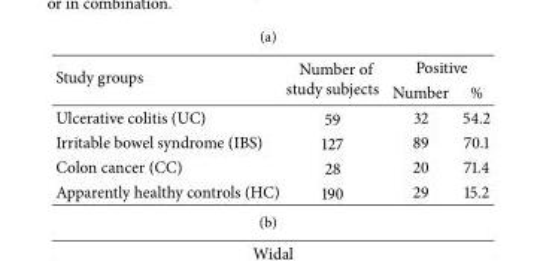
<table><thead><tr><td rowspan="2">Study groups</td><td rowspan="2">Number of study subjects</td><td colspan="2">Positive</td></tr><tr><td>Number</td><td>%</td></tr></thead><tbody><tr><td>Ulcerative colitis (UC)</td><td>59</td><td>32</td><td>54.2</td></tr><tr><td>Irritable bowel syndrome (IBS)</td><td>127</td><td>89</td><td>70.1</td></tr><tr><td>Colon cancer (CC)</td><td>28</td><td>20</td><td>71.4</td></tr><tr><td>Apparently healthy controls (HC)</td><td>190</td><td>29</td><td>15.2</td></tr></tbody></table>